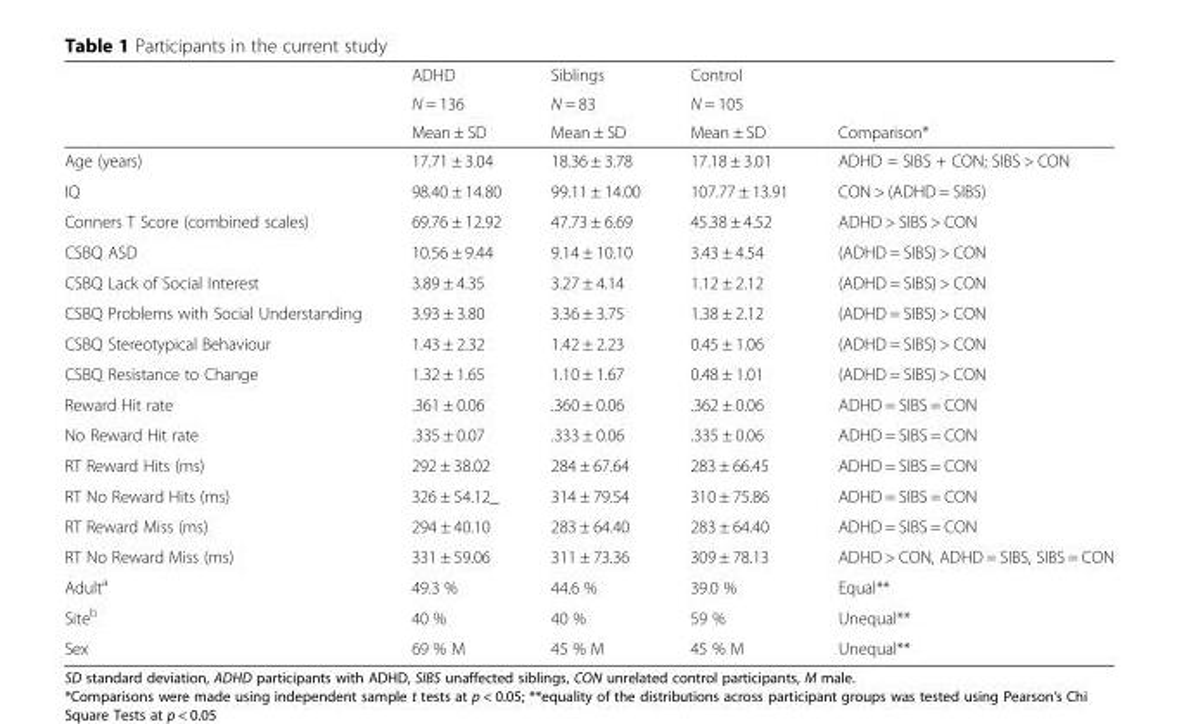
<table><thead><tr><td rowspan="3"></td><td rowspan="3">ADHD N = 136 Mean ± SD</td><td rowspan="3">Siblings N = 83 Mean ± SD</td><td rowspan="3">Control N = 105 Mean ± SD</td><td rowspan="3">Comparison*</td></tr><tr></tr><tr></tr></thead><tbody><tr><td>Age (years)</td><td>17.71 ± 3.04</td><td>18.36 ± 3.78</td><td>17.18 ± 3.01</td><td>ADHD = SIBS + CON; SIBS &gt; CON</td></tr><tr><td>IQ</td><td>98.40 ± 14.80</td><td>99.11 ± 14.00</td><td>107.77 ± 13.91</td><td>CON &gt; (ADHD = SIBS)</td></tr><tr><td>Conners T Score (combined scales)</td><td>69.76 ± 12.92</td><td>47.73 ± 6.69</td><td>45.38 ± 4.52</td><td>ADHD &gt; SIBS &gt; CON</td></tr><tr><td>CSBQ ASD</td><td>10.56 ± 9.44</td><td>9.14 ± 10.10</td><td>3.43 ± 4.54</td><td>(ADHD = SIBS) &gt; CON</td></tr><tr><td>CSBQ Lack of Social Interest</td><td>3.89 ± 4.35</td><td>3.27 ± 4.14</td><td>1.12 ± 2.12</td><td>(ADHD = SIBS) &gt; CON</td></tr><tr><td>CSBQ Problems with Social Understanding</td><td>3.93 ± 3.80</td><td>3.36 ± 3.75</td><td>1.38 ± 2.12</td><td>(ADHD = SIBS) &gt; CON</td></tr><tr><td>CSBQ Stereotypical Behaviour</td><td>1.43 ± 2.32</td><td>1.42 ± 2.23</td><td>0.45 ± 1.06</td><td>(ADHD = SIBS) &gt; CON</td></tr><tr><td>CSBQ Resistance to Change</td><td>1.32 ± 1.65</td><td>1.10 ± 1.67</td><td>0.48 ± 1.01</td><td>(ADHD = SIBS) &gt; CON</td></tr><tr><td>Reward Hit rate</td><td>.361 ± 0.06</td><td>.360 ± 0.06</td><td>.362 ± 0.06</td><td>ADHD = SIBS = CON</td></tr><tr><td>No Reward Hit rate</td><td>.335 ± 0.07</td><td>.333 ± 0.06</td><td>.335 ± 0.06</td><td>ADHD = SIBS = CON</td></tr><tr><td>RT Reward Hits (ms)</td><td>292 ± 38.02</td><td>284 ± 67.64</td><td>283 ± 66.45</td><td>ADHD = SIBS = CON</td></tr><tr><td>RT No Reward Hits (ms)</td><td>326 ± 54.12_</td><td>314 ± 79.54</td><td>310 ± 75.86</td><td>ADHD = SIBS = CON</td></tr><tr><td>RT Reward Miss (ms)</td><td>294 ± 40.10</td><td>283 ± 64.40</td><td>283 ± 64.40</td><td>ADHD = SIBS = CON</td></tr><tr><td>RT No Reward Miss (ms)</td><td>331 ± 59.06</td><td>311 ± 73.36</td><td>309 ± 78.13</td><td>ADHD &gt; CON, ADHD = SIBS, SIBS = CON</td></tr><tr><td>Adult<sup>a</sup></td><td>49.3 %</td><td>44.6 %</td><td>39.0 %</td><td>Equal**</td></tr><tr><td>Site<sup>b</sup></td><td>40 %</td><td>40 %</td><td>59 %</td><td>Unequal**</td></tr><tr><td>Sex</td><td>69 % M</td><td>45 % M</td><td>45 % M</td><td>Unequal**</td></tr></tbody></table>